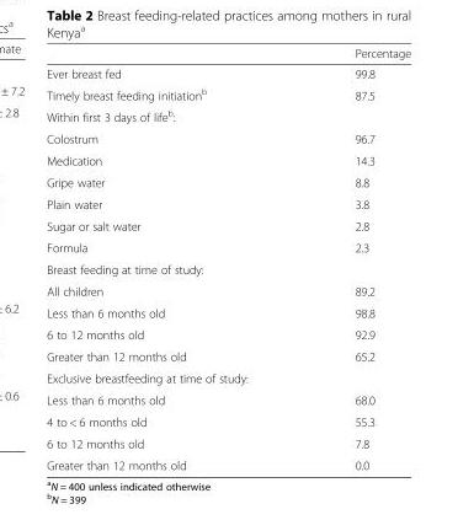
<table><thead><tr><td></td><td>Percentage</td></tr></thead><tbody><tr><td>Ever breast fed</td><td>99.8</td></tr><tr><td>Timely breast feeding initiation<sup>b</sup></td><td>87.5</td></tr><tr><td colspan="2">Within first 3 days of life<sup>b</sup>:</td></tr><tr><td>Colostrum</td><td>96.7</td></tr><tr><td>Medication</td><td>14.3</td></tr><tr><td>Gripe water</td><td>8.8</td></tr><tr><td>Plain water</td><td>3.8</td></tr><tr><td>Sugar or salt water</td><td>2.8</td></tr><tr><td>Formula</td><td>2.3</td></tr><tr><td colspan="2">Breast feeding at time of study:</td></tr><tr><td>All children</td><td>89.2</td></tr><tr><td>Less than 6 months old</td><td>98.8</td></tr><tr><td>6 to 12 months old</td><td>92.9</td></tr><tr><td>Greater than 12 months old</td><td>65.2</td></tr><tr><td colspan="2">Exclusive breastfeeding at time of study:</td></tr><tr><td>Less than 6 months old</td><td>68.0</td></tr><tr><td>4 to &lt; 6 months old</td><td>55.3</td></tr><tr><td>6 to 12 months old</td><td>7.8</td></tr><tr><td>Greater than 12 months old</td><td>0.0</td></tr></tbody></table>